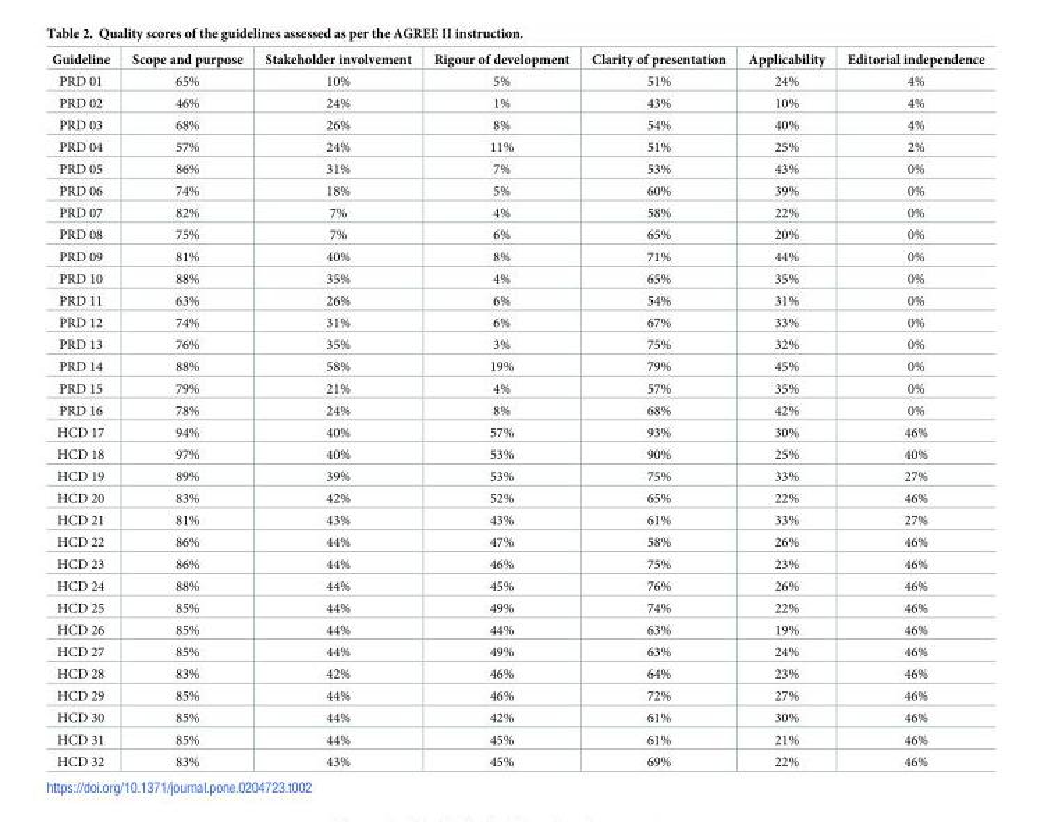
<table><thead><tr><td>Guideline</td><td>Scope and purpose</td><td>Stakeholder involvement</td><td>Rigour of development</td><td>Clarity of presentation</td><td>Applicability</td><td>Editorial independence</td></tr></thead><tbody><tr><td>PRD 01</td><td>65%</td><td>10%</td><td>5%</td><td>51%</td><td>24%</td><td>4%</td></tr><tr><td>PRD 02</td><td>46%</td><td>24%</td><td>1%</td><td>43%</td><td>10%</td><td>4%</td></tr><tr><td>PRD 03</td><td>68%</td><td>26%</td><td>8%</td><td>54%</td><td>40%</td><td>4%</td></tr><tr><td>PRD 04</td><td>57%</td><td>24%</td><td>11%</td><td>51%</td><td>25%</td><td>2%</td></tr><tr><td>PRD 05</td><td>86%</td><td>31%</td><td>7%</td><td>53%</td><td>43%</td><td>0%</td></tr><tr><td>PRD 06</td><td>74%</td><td>18%</td><td>5%</td><td>60%</td><td>39%</td><td>0%</td></tr><tr><td>PRD 07</td><td>82%</td><td>7%</td><td>4%</td><td>58%</td><td>22%</td><td>0%</td></tr><tr><td>PRD 08</td><td>75%</td><td>7%</td><td>6%</td><td>65%</td><td>20%</td><td>0%</td></tr><tr><td>PRD 09</td><td>81%</td><td>40%</td><td>8%</td><td>71%</td><td>44%</td><td>0%</td></tr><tr><td>PRD 10</td><td>88%</td><td>35%</td><td>4%</td><td>65%</td><td>35%</td><td>0%</td></tr><tr><td>PRD 11</td><td>63%</td><td>26%</td><td>6%</td><td>54%</td><td>31%</td><td>0%</td></tr><tr><td>PRD 12</td><td>74%</td><td>31%</td><td>6%</td><td>67%</td><td>33%</td><td>0%</td></tr><tr><td>PRD 13</td><td>76%</td><td>35%</td><td>3%</td><td>75%</td><td>32%</td><td>0%</td></tr><tr><td>PRD 14</td><td>88%</td><td>58%</td><td>19%</td><td>79%</td><td>45%</td><td>0%</td></tr><tr><td>PRD 15</td><td>79%</td><td>21%</td><td>4%</td><td>57%</td><td>35%</td><td>0%</td></tr><tr><td>PRD 16</td><td>78%</td><td>24%</td><td>8%</td><td>68%</td><td>42%</td><td>0%</td></tr><tr><td>HCD 17</td><td>94%</td><td>40%</td><td>57%</td><td>93%</td><td>30%</td><td>46%</td></tr><tr><td>HCD 18</td><td>97%</td><td>40%</td><td>53%</td><td>90%</td><td>25%</td><td>40%</td></tr><tr><td>HCD 19</td><td>89%</td><td>39%</td><td>53%</td><td>75%</td><td>33%</td><td>27%</td></tr><tr><td>HCD 20</td><td>83%</td><td>42%</td><td>52%</td><td>65%</td><td>22%</td><td>46%</td></tr><tr><td>HCD 21</td><td>81%</td><td>43%</td><td>43%</td><td>61%</td><td>33%</td><td>27%</td></tr><tr><td>HCD 22</td><td>86%</td><td>44%</td><td>47%</td><td>58%</td><td>26%</td><td>46%</td></tr><tr><td>HCD 23</td><td>86%</td><td>44%</td><td>46%</td><td>75%</td><td>23%</td><td>46%</td></tr><tr><td>HCD 24</td><td>88%</td><td>44%</td><td>45%</td><td>76%</td><td>26%</td><td>46%</td></tr><tr><td>HCD 25</td><td>85%</td><td>44%</td><td>49%</td><td>74%</td><td>22%</td><td>46%</td></tr><tr><td>HCD 26</td><td>85%</td><td>44%</td><td>44%</td><td>63%</td><td>19%</td><td>46%</td></tr><tr><td>HCD 27</td><td>85%</td><td>44%</td><td>49%</td><td>63%</td><td>24%</td><td>46%</td></tr><tr><td>HCD 28</td><td>83%</td><td>42%</td><td>46%</td><td>64%</td><td>23%</td><td>46%</td></tr><tr><td>HCD 29</td><td>85%</td><td>44%</td><td>46%</td><td>72%</td><td>27%</td><td>46%</td></tr><tr><td>HCD 30</td><td>85%</td><td>44%</td><td>42%</td><td>61%</td><td>30%</td><td>46%</td></tr><tr><td>HCD 31</td><td>85%</td><td>44%</td><td>45%</td><td>61%</td><td>21%</td><td>46%</td></tr><tr><td>HCD 32</td><td>83%</td><td>43%</td><td>45%</td><td>69%</td><td>22%</td><td>46%</td></tr></tbody></table>